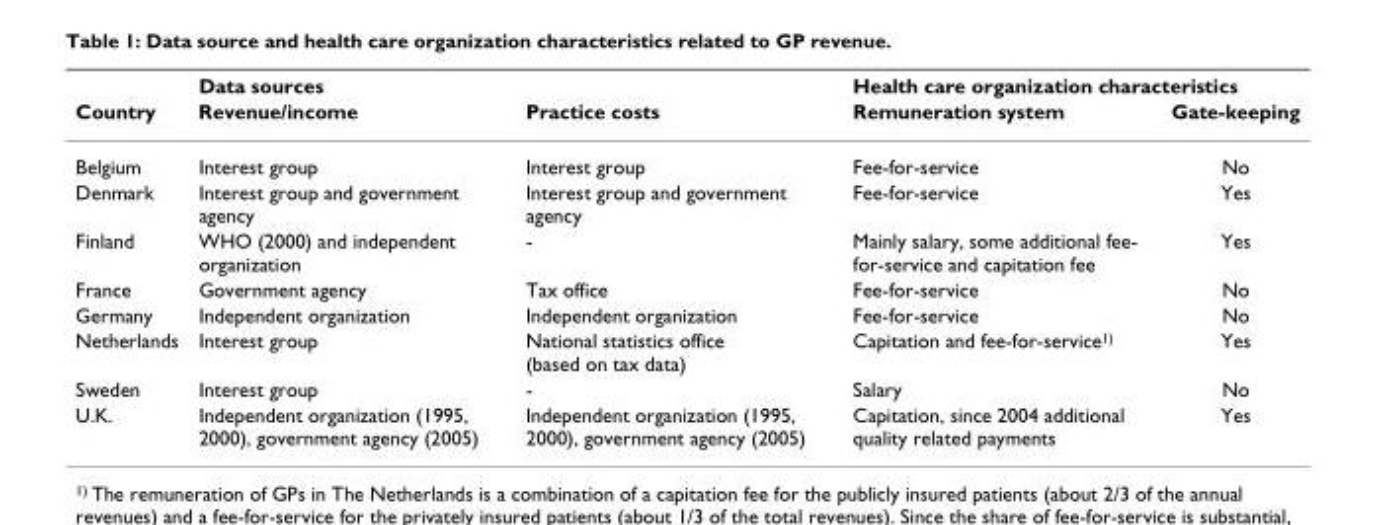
<table><thead><tr><td rowspan="2">Country</td><td colspan="2">Data sources</td><td colspan="2">Health care organization characteristics</td></tr><tr><td>Revenue/income</td><td>Practice costs</td><td>Remuneration system</td><td>Gate-keeping</td></tr></thead><tbody><tr><td>Belgium</td><td>Interest group</td><td>Interest group</td><td>Fee-for-service</td><td>No</td></tr><tr><td>Denmark</td><td>Interest group and government agency</td><td>Interest group and government agency</td><td>Fee-for-service</td><td>Yes</td></tr><tr><td>Finland</td><td>WHO (2000) and independent organization</td><td>-</td><td>Mainly salary, some additional fee- for-service and capitation fee</td><td>Yes</td></tr><tr><td>France</td><td>Government agency</td><td>Tax office</td><td>Fee-for-service</td><td>No</td></tr><tr><td>Germany</td><td>Independent organization</td><td>Independent organization</td><td>Fee-for-service</td><td>No</td></tr><tr><td>Netherlands</td><td>Interest group</td><td>National statistics office (based on tax data)</td><td>Capitation and fee-for-service<sup>1)</sup></td><td>Yes</td></tr><tr><td>Sweden</td><td>Interest group</td><td>-</td><td>Salary</td><td>No</td></tr><tr><td>U.K.</td><td>Independent organization (1995, 2000), government agency (2005)</td><td>Independent organization (1995, 2000), government agency (2005)</td><td>Capitation, since 2004 additional quality related payments</td><td>Yes</td></tr></tbody></table>